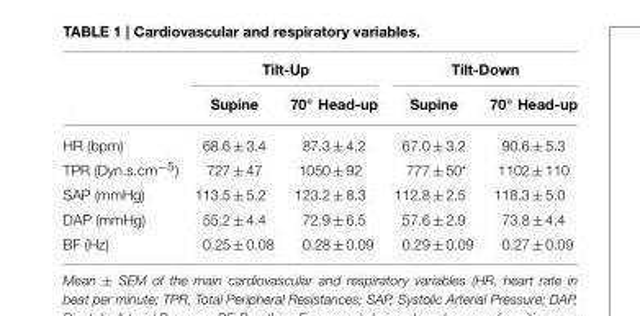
<table><thead><tr><td rowspan="2"></td><td colspan="2">Tilt-Up</td><td colspan="2">Tilt-Down</td></tr><tr><td>Supine</td><td>70◦ Head-up</td><td>Supine</td><td>70◦ Head-up</td></tr></thead><tbody><tr><td>HR (bpm)</td><td>68.6 ± 3.4</td><td>87.3 ± 4.2</td><td>67.0 ± 3.2</td><td>90.6 ± 5.3</td></tr><tr><td>TPR (Dyn.s.cm<sup>−5</sup>)</td><td>727 ± 47</td><td>1050 ± 92</td><td>777 ± 50*</td><td>1102 ± 110</td></tr><tr><td>SAP (mmHg)</td><td>113.5 ± 5.2</td><td>123.2 ± 8.3</td><td>112.8 ± 2.5</td><td>118.3 ± 5.0</td></tr><tr><td>DAP (mmHg)</td><td>55.2 ± 4.4</td><td>72.9 ± 6.5</td><td>57.6 ± 2.9</td><td>73.8 ± 4.4</td></tr><tr><td>BF (Hz)</td><td>0.25 ± 0.08</td><td>0.28 ± 0.09</td><td>0.29 ± 0.09</td><td>0.27 ± 0.09</td></tr></tbody></table>